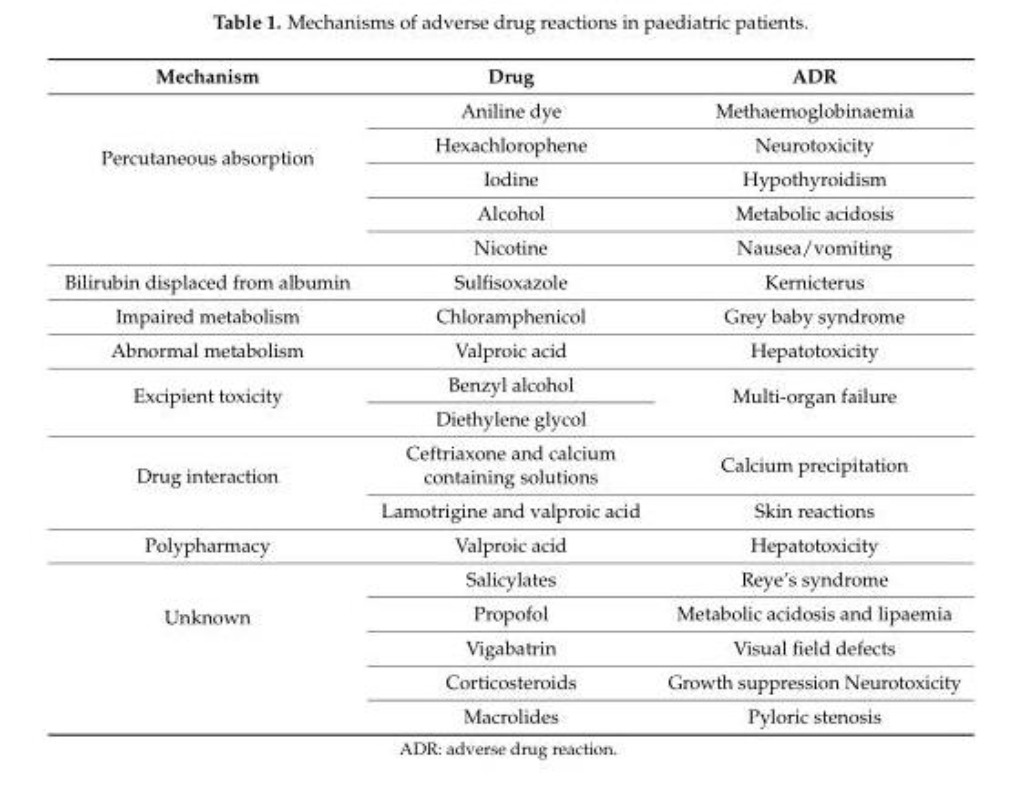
<table><thead><tr><td>Mechanism</td><td>Drug</td><td>ADR</td></tr></thead><tbody><tr><td rowspan="5">Percutaneous absorption</td><td>Aniline dye</td><td>Methaemoglobinaemia</td></tr><tr><td>Hexachlorophene</td><td>Neurotoxicity</td></tr><tr><td>Iodine</td><td>Hypothyroidism</td></tr><tr><td>Alcohol</td><td>Metabolic acidosis</td></tr><tr><td>Nicotine</td><td>Nausea/vomiting</td></tr><tr><td>Bilirubin displaced from albumin</td><td>Sulfisoxazole</td><td>Kernicterus</td></tr><tr><td>Impaired metabolism</td><td>Chloramphenicol</td><td>Grey baby syndrome</td></tr><tr><td>Abnormal metabolism</td><td>Valproic acid</td><td>Hepatotoxicity</td></tr><tr><td rowspan="2">Excipient toxicity</td><td>Benzyl alcohol</td><td rowspan="2">Multi-organ failure</td></tr><tr><td>Diethylene glycol</td></tr><tr><td rowspan="2">Drug interaction</td><td>Ceftriaxone and calcium containing solutions</td><td>Calcium precipitation</td></tr><tr><td>Lamotrigine and valproic acid</td><td>Skin reactions</td></tr><tr><td>Polypharmacy</td><td>Valproic acid</td><td>Hepatotoxicity</td></tr><tr><td rowspan="5">Unknown</td><td>Salicylates</td><td>Reye’s syndrome</td></tr><tr><td>Propofol</td><td>Metabolic acidosis and lipaemia</td></tr><tr><td>Vigabatrin</td><td>Visual field defects</td></tr><tr><td>Corticosteroids</td><td>Growth suppression Neurotoxicity</td></tr><tr><td>Macrolides</td><td>Pyloric stenosis</td></tr></tbody></table>